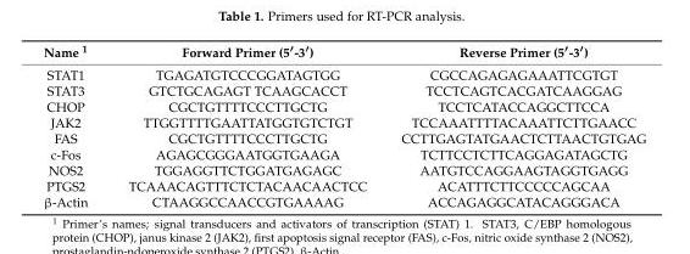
<table><thead><tr><td>Name <sup>1</sup></td><td>Forward Primer (5′-3′)</td><td>Reverse Primer (5′-3′)</td></tr></thead><tbody><tr><td>STAT1</td><td>TGAGATGTCCCGGATAGTGG</td><td>CGCCAGAGAGAAATTCGTGT</td></tr><tr><td>STAT3</td><td>GTCTGCAGAGT TCAAGCACCT</td><td>TCCTCAGTCACGATCAAGGAG</td></tr><tr><td>CHOP</td><td>CGCTGTTTTCCCTTGCTG</td><td>TCCTCATACCAGGCTTCCA</td></tr><tr><td>JAK2</td><td>TTGGTTTTGAATTATGGTGTCTGT</td><td>TCCAAATTTTACAAATTCTTGAACC</td></tr><tr><td>FAS</td><td>CGCTGTTTTCCCTTGCTG</td><td>CCTTGAGTATGAACTCTTAACTGTGAG</td></tr><tr><td>c-Fos</td><td>AGAGCGGGAATGGTGAAGA</td><td>TCTTCCTCTTCAGGAGATAGCTG</td></tr><tr><td>NOS2</td><td>TGGAGGTTCTGGATGAGAGC</td><td>AATGTCCAGGAAGTAGGTGAGG</td></tr><tr><td>PTGS2</td><td>TCAAACAGTTTCTCTACAACAACTCC</td><td>ACATTTCTTCCCCCAGCAA</td></tr><tr><td>β-Actin</td><td>CTAAGGCCAACCGTGAAAAG</td><td>ACCAGAGGCATACAGGGACA</td></tr></tbody></table>